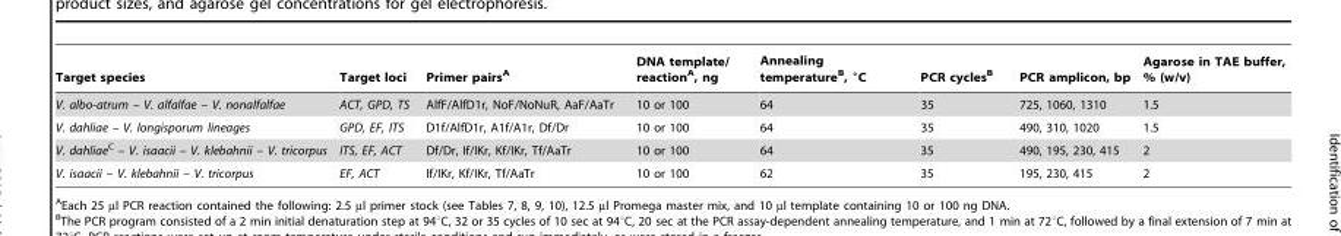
<table><thead><tr><td>Target species</td><td>Target loci</td><td>Primer pairs<sup>A</sup></td><td>DNA template/ reaction<sup>A</sup>, ng</td><td>Annealing temperature<sup>B</sup>, °C</td><td>PCR cycles<sup>B</sup></td><td>PCR amplicon, bp</td><td>Agarose in TAE buffer, % (w/v)</td></tr></thead><tbody><tr><td>V. albo-atrum – V. alfalfae – V. nonalfalfae</td><td>ACT, GPD, TS</td><td>AlfF/AlfD1r, NoF/NoNuR, AaF/AaTr</td><td>10 or 100</td><td>64</td><td>35</td><td>725, 1060, 1310</td><td>1.5</td></tr><tr><td>V. dahliae – V. longisporum lineages</td><td>GPD, EF, ITS</td><td>D1f/AlfD1r, A1f/A1r, Df/Dr</td><td>10 or 100</td><td>64</td><td>35</td><td>490, 310, 1020</td><td>1.5</td></tr><tr><td>V. dahliaeC – V. isaacii – V. klebahnii – V. tricorpus</td><td>ITS, EF, ACT</td><td>Df/Dr, If/IKr, Kf/IKr, Tf/AaTr</td><td>10 or 100</td><td>64</td><td>35</td><td>490, 195, 230, 415</td><td>2</td></tr><tr><td>V. isaacii – V. klebahnii – V. tricorpus</td><td>EF, ACT</td><td>If/IKr, Kf/IKr, Tf/AaTr</td><td>10 or 100</td><td>62</td><td>35</td><td>195, 230, 415</td><td>2</td></tr></tbody></table>